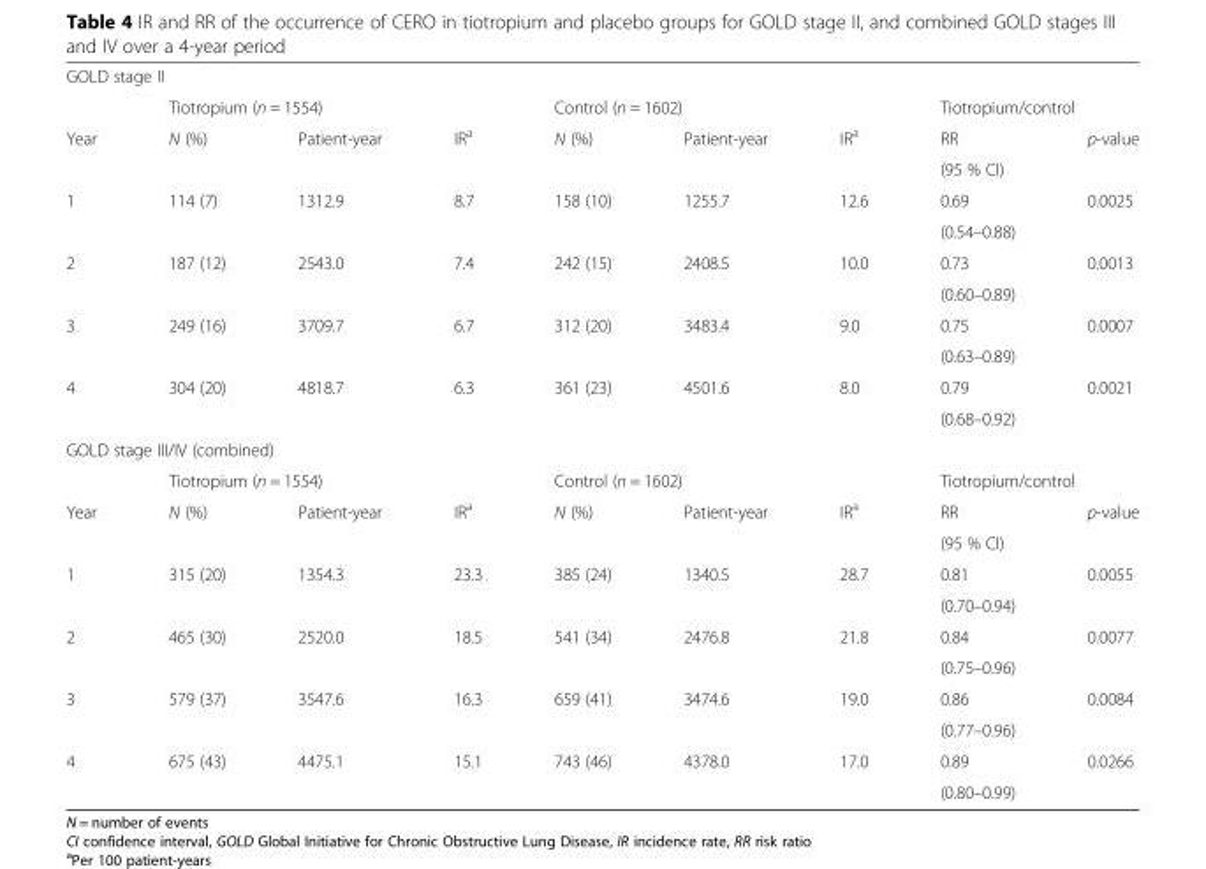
<table><tbody><tr><td colspan="9">GOLD stage II</td></tr><tr><td></td><td colspan="3">Tiotropium (n = 1554)</td><td colspan="3">Control (n = 1602)</td><td colspan="2">Tiotropium/control</td></tr><tr><td rowspan="2">Year</td><td>N (%)</td><td>Patient-year</td><td>IR<sup>a</sup></td><td>N (%)</td><td>Patient-year</td><td>IR<sup>a</sup></td><td>RR</td><td>p-value</td></tr><tr><td></td><td></td><td></td><td></td><td></td><td></td><td>(95 % CI)</td><td></td></tr><tr><td rowspan="2">1</td><td>114 (7)</td><td>1312.9</td><td>8.7</td><td>158 (10)</td><td>1255.7</td><td>12.6</td><td>0.69</td><td>0.0025</td></tr><tr><td></td><td></td><td></td><td></td><td></td><td></td><td>(0.54–0.88)</td><td></td></tr><tr><td rowspan="2">2</td><td>187 (12)</td><td>2543.0</td><td>7.4</td><td>242 (15)</td><td>2408.5</td><td>10.0</td><td>0.73</td><td>0.0013</td></tr><tr><td></td><td></td><td></td><td></td><td></td><td></td><td>(0.60–0.89)</td><td></td></tr><tr><td rowspan="2">3</td><td>249 (16)</td><td>3709.7</td><td>6.7</td><td>312 (20)</td><td>3483.4</td><td>9.0</td><td>0.75</td><td>0.0007</td></tr><tr><td></td><td></td><td></td><td></td><td></td><td></td><td>(0.63–0.89)</td><td></td></tr><tr><td rowspan="2">4</td><td>304 (20)</td><td>4818.7</td><td>6.3</td><td>361 (23)</td><td>4501.6</td><td>8.0</td><td>0.79</td><td>0.0021</td></tr><tr><td></td><td></td><td></td><td></td><td></td><td></td><td>(0.68–0.92)</td><td></td></tr><tr><td colspan="9">GOLD stage III/IV (combined)</td></tr><tr><td></td><td colspan="3">Tiotropium (n = 1554)</td><td colspan="3">Control (n = 1602)</td><td colspan="2">Tiotropium/control</td></tr><tr><td rowspan="2">Year</td><td>N (%)</td><td>Patient-year</td><td>IR<sup>a</sup></td><td>N (%)</td><td>Patient-year</td><td>IR<sup>a</sup></td><td>RR</td><td>p-value</td></tr><tr><td></td><td></td><td></td><td></td><td></td><td></td><td>(95 % CI)</td><td></td></tr><tr><td rowspan="2">1</td><td>315 (20)</td><td>1354.3</td><td>23.3</td><td>385 (24)</td><td>1340.5</td><td>28.7</td><td>0.81</td><td>0.0055</td></tr><tr><td></td><td></td><td></td><td></td><td></td><td></td><td>(0.70–0.94)</td><td></td></tr><tr><td rowspan="2">2</td><td>465 (30)</td><td>2520.0</td><td>18.5</td><td>541 (34)</td><td>2476.8</td><td>21.8</td><td>0.84</td><td>0.0077</td></tr><tr><td></td><td></td><td></td><td></td><td></td><td></td><td>(0.75–0.96)</td><td></td></tr><tr><td rowspan="2">3</td><td>579 (37)</td><td>3547.6</td><td>16.3</td><td>659 (41)</td><td>3474.6</td><td>19.0</td><td>0.86</td><td>0.0084</td></tr><tr><td></td><td></td><td></td><td></td><td></td><td></td><td>(0.77–0.96)</td><td></td></tr><tr><td rowspan="2">4</td><td>675 (43)</td><td>4475.1</td><td>15.1</td><td>743 (46)</td><td>4378.0</td><td>17.0</td><td>0.89</td><td>0.0266</td></tr><tr><td></td><td></td><td></td><td></td><td></td><td></td><td>(0.80–0.99)</td><td></td></tr></tbody></table>